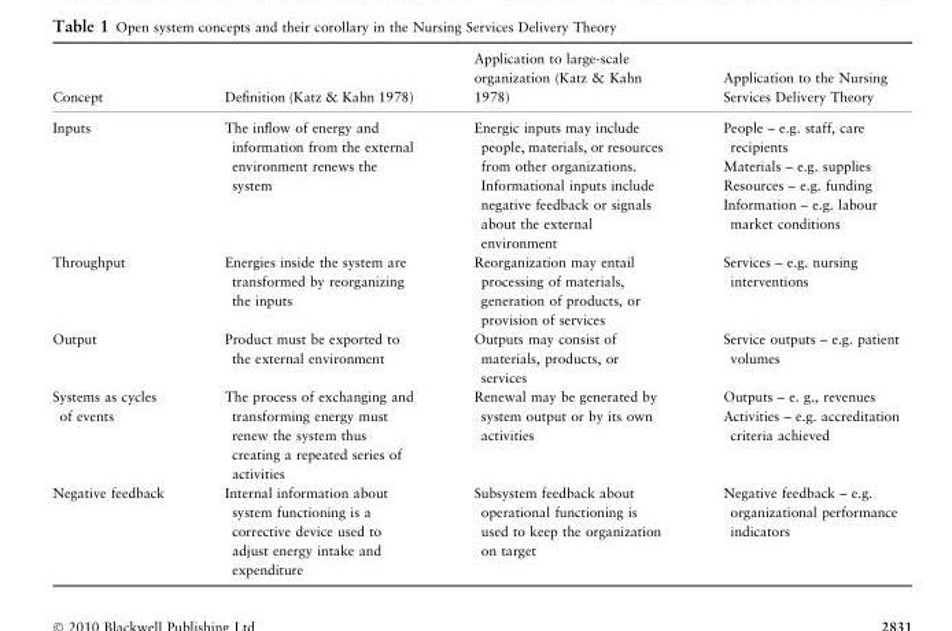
<table><thead><tr><td>Concept</td><td>Definition (Katz &amp; Kahn 1978)</td><td>Application to large-scale organization (Katz &amp; Kahn 1978)</td><td>Application to the Nursing Services Delivery Theory</td></tr></thead><tbody><tr><td>Inputs</td><td>The inflow of energy and information from the external environment renews the system</td><td>Energic inputs may include people, materials, or resources from other organizations. Informational inputs include negative feedback or signals about the external environment</td><td>People – e.g. staff, care recipients Materials – e.g. supplies Resources – e.g. funding Information – e.g. labour market conditions</td></tr><tr><td>Throughput</td><td>Energies inside the system are transformed by reorganizing the inputs</td><td>Reorganization may entail processing of materials, generation of products, or provision of services</td><td>Services – e.g. nursing interventions</td></tr><tr><td>Output</td><td>Product must be exported to the external environment</td><td>Outputs may consist of materials, products, or services</td><td>Service outputs – e.g. patient volumes</td></tr><tr><td>Systems as cycles of events</td><td>The process of exchanging and transforming energy must renew the system thus creating a repeated series of activities</td><td>Renewal may be generated by system output or by its own activities</td><td>Outputs – e. g., revenues Activities – e.g. accreditation criteria achieved</td></tr><tr><td>Negative feedback</td><td>Internal information about system functioning is a corrective device used to adjust energy intake and expenditure</td><td>Subsystem feedback about operational functioning is used to keep the organization on target</td><td>Negative feedback – e.g. organizational performance indicators</td></tr></tbody></table>